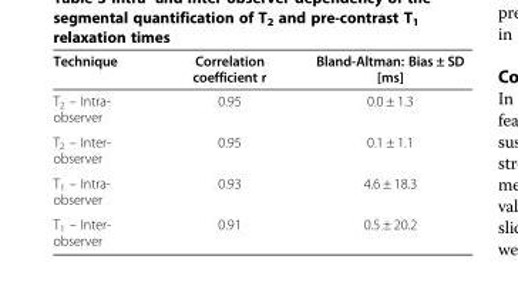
<table><thead><tr><td>Technique</td><td>Correlation coefficient r</td><td>Bland-Altman: Bias ± SD [ms]</td></tr></thead><tbody><tr><td>T<sub>2</sub> – Intra- observer</td><td>0.95</td><td>0.0 ± 1.3</td></tr><tr><td>T<sub>2</sub> – Inter- observer</td><td>0.95</td><td>0.1 ± 1.1</td></tr><tr><td>T<sub>1</sub> – Intra- observer</td><td>0.93</td><td>4.6 ± 18.3</td></tr><tr><td>T<sub>1</sub> – Inter- observer</td><td>0.91</td><td>0.5 ± 20.2</td></tr></tbody></table>